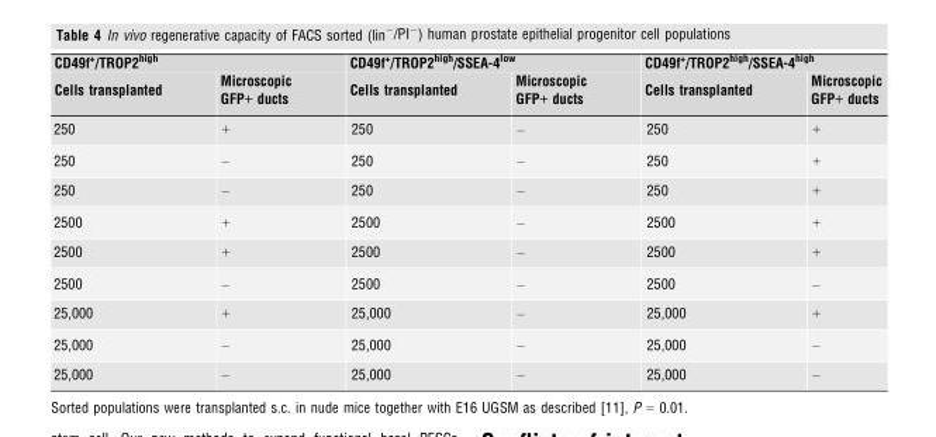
<table><thead><tr><td colspan="2">CD49f<sup>+</sup>/TROP2<sup>high</sup></td><td colspan="2">CD49f<sup>+</sup>/TROP2<sup>high</sup>/SSEA-4<sup>low</sup></td><td colspan="2">CD49f<sup>+</sup>/TROP2<sup>high</sup>/SSEA-4<sup>high</sup></td></tr><tr><td>Cells transplanted</td><td>Microscopic GFP+ ducts</td><td>Cells transplanted</td><td>Microscopic GFP+ ducts</td><td>Cells transplanted</td><td>Microscopic GFP+ ducts</td></tr></thead><tbody><tr><td>250</td><td>+</td><td>250</td><td>–</td><td>250</td><td>+</td></tr><tr><td>250</td><td>–</td><td>250</td><td>–</td><td>250</td><td>+</td></tr><tr><td>250</td><td>–</td><td>250</td><td>–</td><td>250</td><td>+</td></tr><tr><td>2500</td><td>+</td><td>2500</td><td>–</td><td>2500</td><td>+</td></tr><tr><td>2500</td><td>+</td><td>2500</td><td>–</td><td>2500</td><td>+</td></tr><tr><td>2500</td><td>–</td><td>2500</td><td>–</td><td>2500</td><td>–</td></tr><tr><td>25,000</td><td>+</td><td>25,000</td><td>–</td><td>25,000</td><td>+</td></tr><tr><td>25,000</td><td>–</td><td>25,000</td><td>–</td><td>25,000</td><td>–</td></tr><tr><td>25,000</td><td>–</td><td>25,000</td><td>–</td><td>25,000</td><td>–</td></tr></tbody></table>